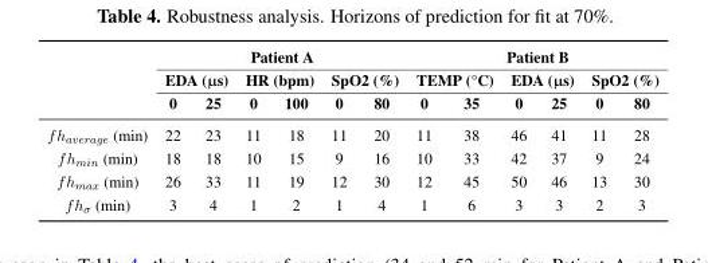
<table><thead><tr><td rowspan="3"></td><td colspan="6">Patient A</td><td colspan="6">Patient B</td></tr><tr><td colspan="2">EDA (µs)</td><td colspan="2">HR (bpm)</td><td colspan="2">SpO2 (%)</td><td colspan="2">TEMP (°C)</td><td colspan="2">EDA (µs)</td><td colspan="2">SpO2 (%)</td></tr><tr><td>0</td><td>25</td><td>0</td><td>100</td><td>0</td><td>80</td><td>0</td><td>35</td><td>0</td><td>25</td><td>0</td><td>80</td></tr></thead><tbody><tr><td>fh<sub>average</sub> (min)</td><td>22</td><td>23</td><td>11</td><td>18</td><td>11</td><td>20</td><td>11</td><td>38</td><td>46</td><td>41</td><td>11</td><td>28</td></tr><tr><td>fh<sub>min</sub> (min)</td><td>18</td><td>18</td><td>10</td><td>15</td><td>9</td><td>16</td><td>10</td><td>33</td><td>42</td><td>37</td><td>9</td><td>24</td></tr><tr><td>fh<sub>max</sub> (min)</td><td>26</td><td>33</td><td>11</td><td>19</td><td>12</td><td>30</td><td>12</td><td>45</td><td>50</td><td>46</td><td>13</td><td>30</td></tr><tr><td>fh<sub>σ</sub> (min)</td><td>3</td><td>4</td><td>1</td><td>2</td><td>1</td><td>4</td><td>1</td><td>6</td><td>3</td><td>3</td><td>2</td><td>3</td></tr></tbody></table>